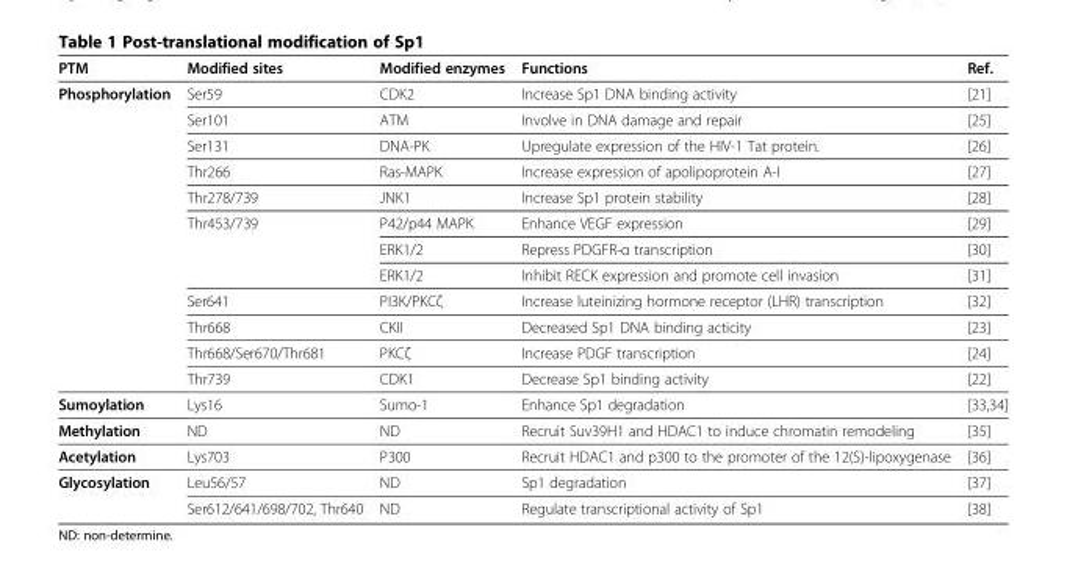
<table><thead><tr><td>PTM</td><td>Modified sites</td><td>Modified enzymes</td><td>Functions</td><td>Ref.</td></tr></thead><tbody><tr><td rowspan="12">Phosphorylation</td><td>Ser59</td><td>CDK2</td><td>Increase Sp1 DNA binding activity</td><td>[21]</td></tr><tr><td>Ser101</td><td>ATM</td><td>Involve in DNA damage and repair</td><td>[25]</td></tr><tr><td>Ser131</td><td>DNA-PK</td><td>Upregulate expression of the HIV-1 Tat protein.</td><td>[26]</td></tr><tr><td>Thr266</td><td>Ras-MAPK</td><td>Increase expression of apolipoprotein A-I</td><td>[27]</td></tr><tr><td>Thr278/739</td><td>JNK1</td><td>Increase Sp1 protein stability</td><td>[28]</td></tr><tr><td>Thr453/739</td><td>P42/p44 MAPK</td><td>Enhance VEGF expression</td><td>[29]</td></tr><tr><td></td><td>ERK1/2</td><td>Repress PDGFR-α transcription</td><td>[30]</td></tr><tr><td></td><td>ERK1/2</td><td>Inhibit RECK expression and promote cell invasion</td><td>[31]</td></tr><tr><td>Ser641</td><td>PI3K/PKCζ</td><td>Increase luteinizing hormone receptor (LHR) transcription</td><td>[32]</td></tr><tr><td>Thr668</td><td>CKII</td><td>Decreased Sp1 DNA binding acticity</td><td>[23]</td></tr><tr><td>Thr668/Ser670/Thr681</td><td>PKCζ</td><td>Increase PDGF transcription</td><td>[24]</td></tr><tr><td>Thr739</td><td>CDK1</td><td>Decrease Sp1 binding activity</td><td>[22]</td></tr><tr><td>Sumoylation</td><td>Lys16</td><td>Sumo-1</td><td>Enhance Sp1 degradation</td><td>[33,34]</td></tr><tr><td>Methylation</td><td>ND</td><td>ND</td><td>Recruit Suv39H1 and HDAC1 to induce chromatin remodeling</td><td>[35]</td></tr><tr><td>Acetylation</td><td>Lys703</td><td>P300</td><td>Recruit HDAC1 and p300 to the promoter of the 12(S)-lipoxygenase</td><td>[36]</td></tr><tr><td rowspan="2">Glycosylation</td><td>Leu56/57</td><td>ND</td><td>Sp1 degradation</td><td>[37]</td></tr><tr><td>Ser612/641/698/702, Thr640</td><td>ND</td><td>Regulate transcriptional activity of Sp1</td><td>[38]</td></tr></tbody></table>